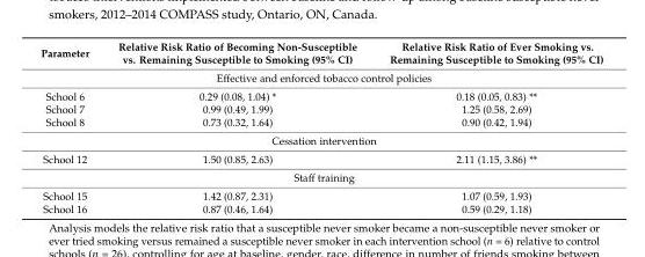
<table><thead><tr><td>Parameter</td><td>Relative Risk Ratio of Becoming Non-Susceptible vs. Remaining Susceptible to Smoking (95% CI)</td><td>Relative Risk Ratio of Ever Smoking vs. Remaining Susceptible to Smoking (95% CI)</td></tr></thead><tbody><tr><td colspan="3">Effective and enforced tobacco control policies</td></tr><tr><td>School 6</td><td>0.29 (0.08, 1.04) *</td><td>0.18 (0.05, 0.83) **</td></tr><tr><td>School 7</td><td>0.99 (0.49, 1.99)</td><td>1.25 (0.58, 2.69)</td></tr><tr><td>School 8</td><td>0.73 (0.32, 1.64)</td><td>0.90 (0.42, 1.94)</td></tr><tr><td colspan="3">Cessation intervention</td></tr><tr><td>School 12</td><td>1.50 (0.85, 2.63)</td><td>2.11 (1.15, 3.86) **</td></tr><tr><td colspan="3">Staff training</td></tr><tr><td>School 15</td><td>1.42 (0.87, 2.31)</td><td>1.07 (0.59, 1.93)</td></tr><tr><td>School 16</td><td>0.87 (0.46, 1.64)</td><td>0.59 (0.29, 1.18)</td></tr></tbody></table>